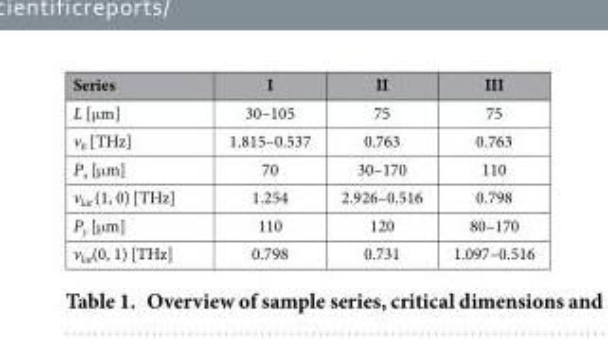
<table><thead><tr><td>Series</td><td>I</td><td>II</td><td>III</td></tr></thead><tbody><tr><td>L [μ m]</td><td>30–105</td><td>75</td><td>75</td></tr><tr><td>v<sub>0</sub> [THz]</td><td>1.815–0.537</td><td>0.763</td><td>0.763</td></tr><tr><td>P<sub>x</sub> [μ m]</td><td>70</td><td>30–170</td><td>110</td></tr><tr><td>v<sub>lat</sub> (1, 0) [THz]</td><td>1.254</td><td>2.926–0.516</td><td>0.798</td></tr><tr><td>P<sub>y</sub> [μ m]</td><td>110</td><td>120</td><td>80–170</td></tr><tr><td>v<sub>lat</sub>(0, 1) [THz]</td><td>0.798</td><td>0.731</td><td>1.097–0.516</td></tr></tbody></table>